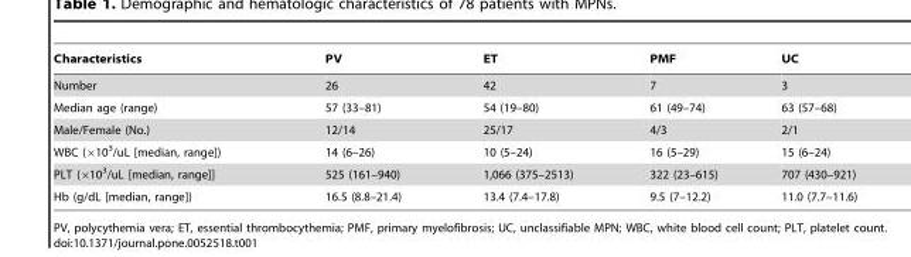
<table><thead><tr><td>Characteristics</td><td>PV</td><td>ET</td><td>PMF</td><td>UC</td></tr></thead><tbody><tr><td>Number</td><td>26</td><td>42</td><td>7</td><td>3</td></tr><tr><td>Median age (range)</td><td>57 (33–81)</td><td>54 (19–80)</td><td>61 (49–74)</td><td>63 (57–68)</td></tr><tr><td>Male/Female (No.)</td><td>12/14</td><td>25/17</td><td>4/3</td><td>2/1</td></tr><tr><td>WBC (×10<sup>3</sup>/uL [median, range])</td><td>14 (6–26)</td><td>10 (5–24)</td><td>16 (5–29)</td><td>15 (6–24)</td></tr><tr><td>PLT (×10<sup>3</sup>/uL [median, range]]</td><td>525 (161–940)</td><td>1,066 (375–2513)</td><td>322 (23–615)</td><td>707 (430–921)</td></tr><tr><td>Hb (g/dL [median, range])</td><td>16.5 (8.8–21.4)</td><td>13.4 (7.4–17.8)</td><td>9.5 (7–12.2)</td><td>11.0 (7.7–11.6)</td></tr></tbody></table>